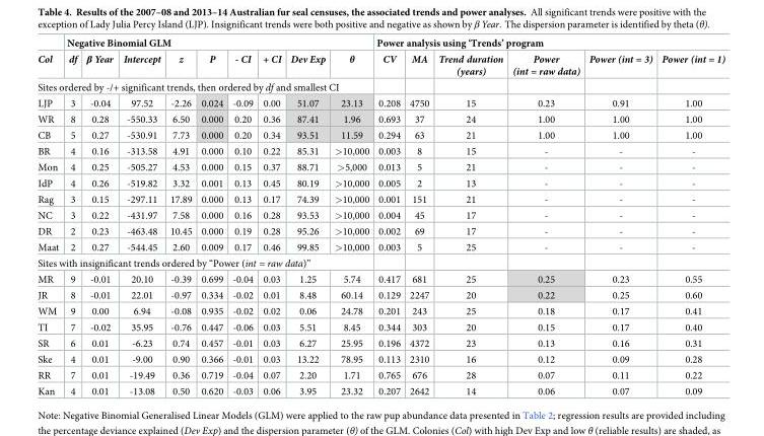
<table><thead><tr><td rowspan="2">Col</td><td colspan="9">Negative Binomial GLM</td><td colspan="6">Power analysis using ‘Trends’ program</td></tr><tr><td>df</td><td>β Year</td><td>Intercept</td><td>z</td><td>P</td><td>- CI</td><td>+ CI</td><td>Dev Exp</td><td>θ</td><td>CV</td><td>MA</td><td>Trend duration (years)</td><td>Power (int = raw data)</td><td>Power (int = 3)</td><td>Power (int = 1)</td></tr></thead><tbody><tr><td colspan="16">Sites ordered by -/+ significant trends, then ordered by df and smallest CI</td></tr><tr><td>LJP</td><td>3</td><td>-0.04</td><td>97.52</td><td>-2.26</td><td>0.024</td><td>-0.09</td><td>0.00</td><td>51.07</td><td>23.13</td><td>0.208</td><td>4750</td><td>15</td><td>0.23</td><td>0.91</td><td>1.00</td></tr><tr><td>WR</td><td>8</td><td>0.28</td><td>-550.33</td><td>6.50</td><td>0.000</td><td>0.20</td><td>0.36</td><td>87.41</td><td>1.96</td><td>0.693</td><td>37</td><td>24</td><td>1.00</td><td>1.00</td><td>1.00</td></tr><tr><td>CB</td><td>5</td><td>0.27</td><td>-530.91</td><td>7.73</td><td>0.000</td><td>0.20</td><td>0.34</td><td>93.51</td><td>11.59</td><td>0.294</td><td>63</td><td>21</td><td>1.00</td><td>1.00</td><td>1.00</td></tr><tr><td>BR</td><td>4</td><td>0.16</td><td>-313.58</td><td>4.91</td><td>0.000</td><td>0.10</td><td>0.22</td><td>85.31</td><td>&gt;10,000</td><td>0.003</td><td>8</td><td>15</td><td>-</td><td>-</td><td>-</td></tr><tr><td>Mon</td><td>4</td><td>0.25</td><td>-505.27</td><td>4.53</td><td>0.000</td><td>0.15</td><td>0.37</td><td>88.71</td><td>&gt;5,000</td><td>0.013</td><td>5</td><td>21</td><td>-</td><td>-</td><td>-</td></tr><tr><td>IdP</td><td>4</td><td>0.26</td><td>-519.82</td><td>3.32</td><td>0.001</td><td>0.13</td><td>0.45</td><td>80.19</td><td>&gt;10,000</td><td>0.005</td><td>2</td><td>13</td><td>-</td><td>-</td><td>-</td></tr><tr><td>Rag</td><td>3</td><td>0.15</td><td>-297.11</td><td>17.89</td><td>0.000</td><td>0.13</td><td>0.17</td><td>74.39</td><td>&gt;10,000</td><td>0.001</td><td>151</td><td>21</td><td>-</td><td>-</td><td>-</td></tr><tr><td>NC</td><td>3</td><td>0.22</td><td>-431.97</td><td>7.58</td><td>0.000</td><td>0.16</td><td>0.28</td><td>93.53</td><td>&gt;10,000</td><td>0.004</td><td>45</td><td>17</td><td>-</td><td>-</td><td>-</td></tr><tr><td>DR</td><td>2</td><td>0.23</td><td>-463.48</td><td>10.45</td><td>0.000</td><td>0.19</td><td>0.28</td><td>95.26</td><td>&gt;10,000</td><td>0.002</td><td>69</td><td>17</td><td>-</td><td>-</td><td>-</td></tr><tr><td>Maat</td><td>2</td><td>0.27</td><td>-544.45</td><td>2.60</td><td>0.009</td><td>0.17</td><td>0.46</td><td>99.85</td><td>&gt;10,000</td><td>0.003</td><td>5</td><td>25</td><td>-</td><td>-</td><td>-</td></tr><tr><td colspan="16">Sites with insignificant trends ordered by “Power (int = raw data)”</td></tr><tr><td>MR</td><td>9</td><td>-0.01</td><td>20.10</td><td>-0.39</td><td>0.699</td><td>-0.04</td><td>0.03</td><td>1.25</td><td>5.74</td><td>0.417</td><td>681</td><td>25</td><td>0.25</td><td>0.23</td><td>0.55</td></tr><tr><td>JR</td><td>8</td><td>-0.01</td><td>22.01</td><td>-0.97</td><td>0.334</td><td>-0.02</td><td>0.01</td><td>8.48</td><td>60.14</td><td>0.129</td><td>2247</td><td>20</td><td>0.22</td><td>0.25</td><td>0.60</td></tr><tr><td>WM</td><td>9</td><td>0.00</td><td>6.94</td><td>-0.08</td><td>0.935</td><td>-0.02</td><td>0.02</td><td>0.06</td><td>24.78</td><td>0.201</td><td>243</td><td>25</td><td>0.18</td><td>0.17</td><td>0.41</td></tr><tr><td>TI</td><td>7</td><td>-0.02</td><td>35.95</td><td>-0.76</td><td>0.447</td><td>-0.06</td><td>0.03</td><td>5.51</td><td>8.45</td><td>0.344</td><td>303</td><td>20</td><td>0.15</td><td>0.17</td><td>0.40</td></tr><tr><td>SR</td><td>6</td><td>0.01</td><td>-6.23</td><td>0.74</td><td>0.457</td><td>-0.01</td><td>0.03</td><td>6.27</td><td>25.95</td><td>0.196</td><td>4372</td><td>23</td><td>0.13</td><td>0.16</td><td>0.31</td></tr><tr><td>Ske</td><td>4</td><td>0.01</td><td>-9.00</td><td>0.90</td><td>0.366</td><td>-0.01</td><td>0.03</td><td>13.22</td><td>78.95</td><td>0.113</td><td>2310</td><td>16</td><td>0.12</td><td>0.09</td><td>0.28</td></tr><tr><td>RR</td><td>7</td><td>0.01</td><td>-19.49</td><td>0.36</td><td>0.719</td><td>-0.04</td><td>0.07</td><td>2.20</td><td>1.71</td><td>0.765</td><td>676</td><td>28</td><td>0.07</td><td>0.11</td><td>0.22</td></tr><tr><td>Kan</td><td>4</td><td>0.01</td><td>-13.08</td><td>0.50</td><td>0.620</td><td>-0.03</td><td>0.06</td><td>3.95</td><td>23.32</td><td>0.207</td><td>2642</td><td>14</td><td>0.06</td><td>0.07</td><td>0.09</td></tr></tbody></table>